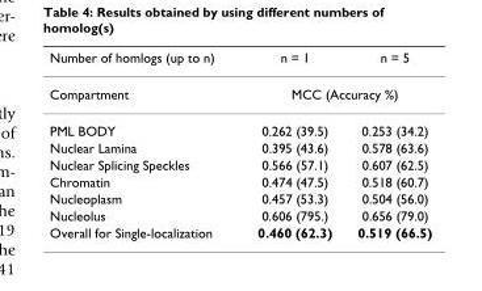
<table><thead><tr><td>Number of homlogs (up to n)</td><td>n = 1</td><td>n = 5</td></tr></thead><tbody><tr><td>Compartment</td><td colspan="2">MCC (Accuracy %)</td></tr><tr><td>PML BODY</td><td>0.262 (39.5)</td><td>0.253 (34.2)</td></tr><tr><td>Nuclear Lamina</td><td>0.395 (43.6)</td><td>0.578 (63.6)</td></tr><tr><td>Nuclear Splicing Speckles</td><td>0.566 (57.1)</td><td>0.607 (62.5)</td></tr><tr><td>Chromatin</td><td>0.474 (47.5)</td><td>0.518 (60.7)</td></tr><tr><td>Nucleoplasm</td><td>0.457 (53.3)</td><td>0.504 (56.0)</td></tr><tr><td>Nucleolus</td><td>0.606 (795.)</td><td>0.656 (79.0)</td></tr><tr><td>Overall for Single-localization</td><td>0.460 (62.3)</td><td>0.519 (66.5)</td></tr></tbody></table>